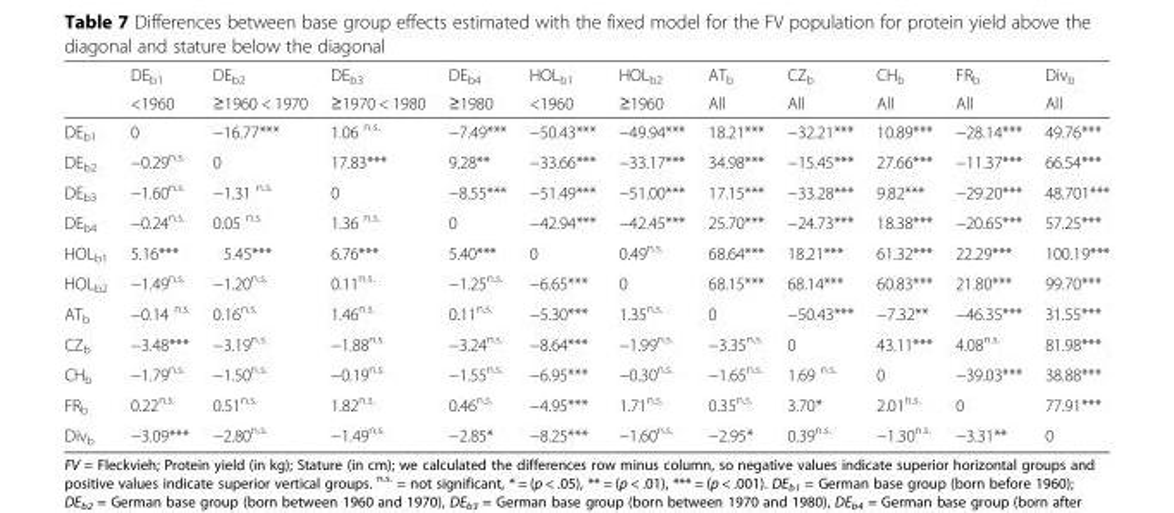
<table><thead><tr><td rowspan="2"></td><td rowspan="2">DEb1 &lt;1960</td><td rowspan="2">DEb2 ≥1960 &lt; 1970</td><td rowspan="2">DEb3 ≥1970 &lt; 1980</td><td rowspan="2">DEb4 ≥1980</td><td rowspan="2">HOLb1 &lt;1960</td><td rowspan="2">HOLb2 ≥1960</td><td rowspan="2">ATb All</td><td rowspan="2">CZb All</td><td rowspan="2">CHb All</td><td rowspan="2">FRb All</td><td rowspan="2">Divb All</td></tr><tr></tr></thead><tbody><tr><td>DE<sub>b1</sub></td><td>0</td><td>−16.77***</td><td>1.06 <sup>n.s.</sup></td><td>−7.49***</td><td>−50.43***</td><td>−49.94***</td><td>18.21***</td><td>−32.21***</td><td>10.89***</td><td>−28.14***</td><td>49.76***</td></tr><tr><td>DE<sub>b2</sub></td><td>−0.29<sup>n.s.</sup></td><td>0</td><td>17.83***</td><td>9.28**</td><td>−33.66***</td><td>−33.17***</td><td>34.98***</td><td>−15.45***</td><td>27.66***</td><td>−11.37***</td><td>66.54***</td></tr><tr><td>DE<sub>b3</sub></td><td>−1.60<sup>n.s.</sup></td><td>−1.31 <sup>n.s.</sup></td><td>0</td><td>−8.55***</td><td>−51.49***</td><td>−51.00***</td><td>17.15***</td><td>−33.28***</td><td>9.82***</td><td>−29.20***</td><td>48.701***</td></tr><tr><td>DE<sub>b4</sub></td><td>−0.24<sup>n.s.</sup></td><td>0.05 <sup>n.s.</sup></td><td>1.36 <sup>n.s.</sup></td><td>0</td><td>−42.94***</td><td>−42.45***</td><td>25.70***</td><td>−24.73***</td><td>18.38***</td><td>−20.65***</td><td>57.25***</td></tr><tr><td>HOL<sub>b1</sub></td><td>5.16***</td><td>5.45***</td><td>6.76***</td><td>5.40***</td><td>0</td><td>0.49<sup>n.s.</sup></td><td>68.64***</td><td>18.21***</td><td>61.32***</td><td>22.29***</td><td>100.19***</td></tr><tr><td>HOL<sub>b2</sub></td><td>−1.49<sup>n.s.</sup></td><td>−1.20<sup>n.s.</sup></td><td>0.11<sup>n.s.</sup></td><td>−1.25<sup>n.s.</sup></td><td>−6.65***</td><td>0</td><td>68.15***</td><td>68.14***</td><td>60.83***</td><td>21.80***</td><td>99.70***</td></tr><tr><td>AT<sub>b</sub></td><td>−0.14 <sup>n.s.</sup></td><td>0.16<sup>n.s.</sup></td><td>1.46<sup>n.s.</sup></td><td>0.11<sup>n.s.</sup></td><td>−5.30***</td><td>1.35<sup>n.s.</sup></td><td>0</td><td>−50.43***</td><td>−7.32**</td><td>−46.35***</td><td>31.55***</td></tr><tr><td>CZ<sub>b</sub></td><td>−3.48***</td><td>−3.19<sup>n.s.</sup></td><td>−1.88<sup>n.s.</sup></td><td>−3.24<sup>n.s.</sup></td><td>−8.64***</td><td>−1.99<sup>n.s.</sup></td><td>−3.35<sup>n.s.</sup></td><td>0</td><td>43.11***</td><td>4.08<sup>n.s.</sup></td><td>81.98***</td></tr><tr><td>CH<sub>b</sub></td><td>−1.79<sup>n.s.</sup></td><td>−1.50<sup>n.s.</sup></td><td>−0.19<sup>n.s.</sup></td><td>−1.55<sup>n.s.</sup></td><td>−6.95***</td><td>−0.30<sup>n.s.</sup></td><td>−1.65<sup>n.s.</sup></td><td>1.69 <sup>n.s.</sup></td><td>0</td><td>−39.03***</td><td>38.88***</td></tr><tr><td>FR<sub>b</sub></td><td>0.22<sup>n.s.</sup></td><td>0.51<sup>n.s.</sup></td><td>1.82<sup>n.s.</sup></td><td>0.46<sup>n.s.</sup></td><td>−4.95***</td><td>1.71<sup>n.s.</sup></td><td>0.35<sup>n.s.</sup></td><td>3.70*</td><td>2.01<sup>n.s.</sup></td><td>0</td><td>77.91***</td></tr><tr><td>Div<sub>b</sub></td><td>−3.09***</td><td>−2.80<sup>n.s.</sup></td><td>−1.49<sup>n.s.</sup></td><td>−2.85*</td><td>−8.25***</td><td>−1.60<sup>n.s.</sup></td><td>−2.95*</td><td>0.39<sup>n.s.</sup></td><td>−1.30<sup>n.s.</sup></td><td>−3.31**</td><td>0</td></tr></tbody></table>